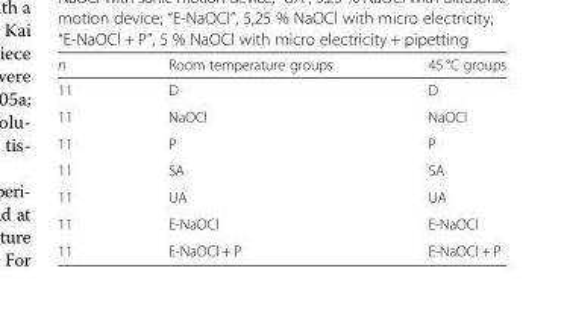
<table><thead><tr><td>n</td><td>Room temperature groups</td><td>45 °C groups</td></tr></thead><tbody><tr><td>11</td><td>D</td><td>D</td></tr><tr><td>11</td><td>NaOCl</td><td>NaOCl</td></tr><tr><td>11</td><td>P</td><td>P</td></tr><tr><td>11</td><td>SA</td><td>SA</td></tr><tr><td>11</td><td>UA</td><td>UA</td></tr><tr><td>11</td><td>E-NaOCl</td><td>E-NaOCl</td></tr><tr><td>11</td><td>E-NaOCl + P</td><td>E-NaOCl + P</td></tr></tbody></table>